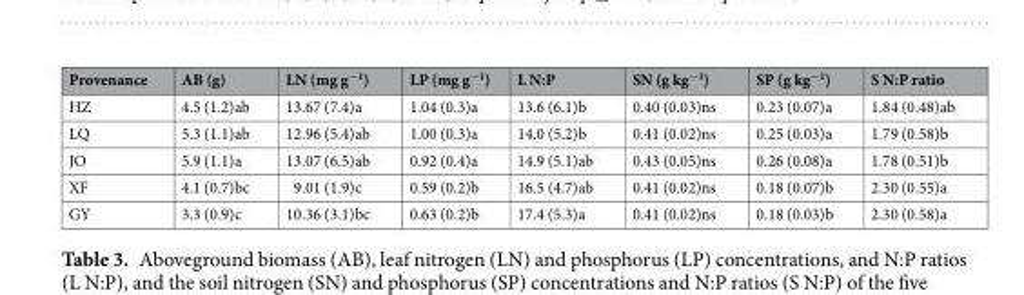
<table><thead><tr><td>Provenance</td><td>AB (g)</td><td>LN (mg g<sup>−1</sup>)</td><td>LP (mg g<sup>−1</sup>)</td><td>L N:P</td><td>SN (g kg<sup>−1</sup>)</td><td>SP (g kg<sup>−1</sup>)</td><td>S N:P ratio</td></tr></thead><tbody><tr><td>HZ</td><td>4.5 (1.2)ab</td><td>13.67 (7.4)a</td><td>1.04 (0.3)a</td><td>13.6 (6.1)b</td><td>0.40 (0.03)ns</td><td>0.23 (0.07)a</td><td>1.84 (0.48)ab</td></tr><tr><td>LQ</td><td>5.3 (1.1)ab</td><td>12.96 (5.4)ab</td><td>1.00 (0.3)a</td><td>14.0 (5.2)b</td><td>0.41 (0.02)ns</td><td>0.25 (0.03)a</td><td>1.79 (0.58)b</td></tr><tr><td>JO</td><td>5.9 (1.1)a</td><td>13.07 (6.5)ab</td><td>0.92 (0.4)a</td><td>14.9 (5.1)ab</td><td>0.43 (0.05)ns</td><td>0.26 (0.08)a</td><td>1.78 (0.51)b</td></tr><tr><td>XF</td><td>4.1 (0.7)bc</td><td>9.01 (1.9)c</td><td>0.59 (0.2)b</td><td>16.5 (4.7)ab</td><td>0.41 (0.02)ns</td><td>0.18 (0.07)b</td><td>2.30 (0.55)a</td></tr><tr><td>GY</td><td>3.3 (0.9)c</td><td>10.36 (3.1)bc</td><td>0.63 (0.2)b</td><td>17.4 (5.3)a</td><td>0.41 (0.02)ns</td><td>0.18 (0.03)b</td><td>2.30 (0.58)a</td></tr></tbody></table>